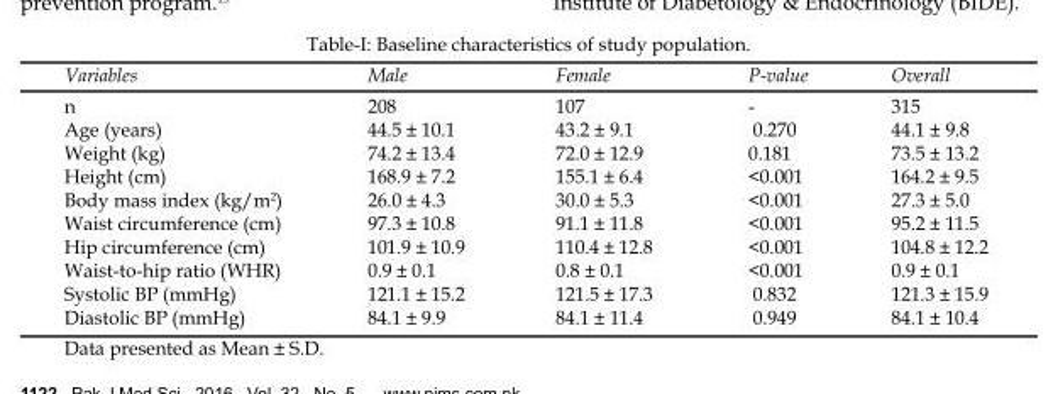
<table><thead><tr><td>Variables</td><td>Male</td><td>Female</td><td>P-value</td><td>Overall</td></tr></thead><tbody><tr><td>n</td><td>208</td><td>107</td><td>-</td><td>315</td></tr><tr><td>Age (years)</td><td>44.5 ± 10.1</td><td>43.2 ± 9.1</td><td>0.270</td><td>44.1 ± 9.8</td></tr><tr><td>Weight (kg)</td><td>74.2 ± 13.4</td><td>72.0 ± 12.9</td><td>0.181</td><td>73.5 ± 13.2</td></tr><tr><td>Height (cm)</td><td>168.9 ± 7.2</td><td>155.1 ± 6.4</td><td>&lt;0.001</td><td>164.2 ± 9.5</td></tr><tr><td>Body mass index (kg/m<sup>2</sup>)</td><td>26.0 ± 4.3</td><td>30.0 ± 5.3</td><td>&lt;0.001</td><td>27.3 ± 5.0</td></tr><tr><td>Waist circumference (cm)</td><td>97.3 ± 10.8</td><td>91.1 ± 11.8</td><td>&lt;0.001</td><td>95.2 ± 11.5</td></tr><tr><td>Hip circumference (cm)</td><td>101.9 ± 10.9</td><td>110.4 ± 12.8</td><td>&lt;0.001</td><td>104.8 ± 12.2</td></tr><tr><td>Waist-to-hip ratio (WHR)</td><td>0.9 ± 0.1</td><td>0.8 ± 0.1</td><td>&lt;0.001</td><td>0.9 ± 0.1</td></tr><tr><td>Systolic BP (mmHg)</td><td>121.1 ± 15.2</td><td>121.5 ± 17.3</td><td>0.832</td><td>121.3 ± 15.9</td></tr><tr><td>Diastolic BP (mmHg)</td><td>84.1 ± 9.9</td><td>84.1 ± 11.4</td><td>0.949</td><td>84.1 ± 10.4</td></tr></tbody></table>